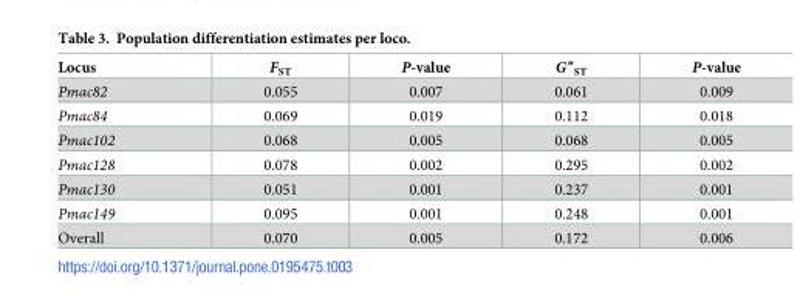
<table><thead><tr><td>Locus</td><td>F<sub>ST</sub></td><td>P-value</td><td>G’’<sub>ST</sub></td><td>P-value</td></tr></thead><tbody><tr><td>Pmac82</td><td>0.055</td><td>0.007</td><td>0.061</td><td>0.009</td></tr><tr><td>Pmac84</td><td>0.069</td><td>0.019</td><td>0.112</td><td>0.018</td></tr><tr><td>Pmac102</td><td>0.068</td><td>0.005</td><td>0.068</td><td>0.005</td></tr><tr><td>Pmac128</td><td>0.078</td><td>0.002</td><td>0.295</td><td>0.002</td></tr><tr><td>Pmac130</td><td>0.051</td><td>0.001</td><td>0.237</td><td>0.001</td></tr><tr><td>Pmac149</td><td>0.095</td><td>0.001</td><td>0.248</td><td>0.001</td></tr><tr><td>Overall</td><td>0.070</td><td>0.005</td><td>0.172</td><td>0.006</td></tr></tbody></table>